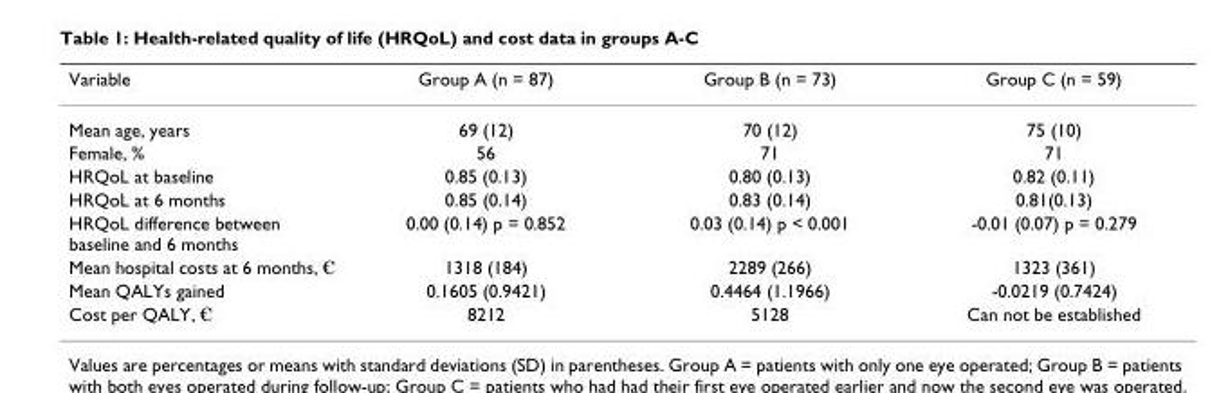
<table><thead><tr><td>Variable</td><td>Group A (n = 87)</td><td>Group B (n = 73)</td><td>Group C (n = 59)</td></tr></thead><tbody><tr><td>Mean age, years</td><td>69 (12)</td><td>70 (12)</td><td>75 (10)</td></tr><tr><td>Female, %</td><td>56</td><td>71</td><td>71</td></tr><tr><td>HRQoL at baseline</td><td>0.85 (0.13)</td><td>0.80 (0.13)</td><td>0.82 (0.11)</td></tr><tr><td>HRQoL at 6 months</td><td>0.85 (0.14)</td><td>0.83 (0.14)</td><td>0.81(0.13)</td></tr><tr><td>HRQoL difference between baseline and 6 months</td><td>0.00 (0.14) p = 0.852</td><td>0.03 (0.14) p &lt; 0.001</td><td>-0.01 (0.07) p = 0.279</td></tr><tr><td>Mean hospital costs at 6 months, €</td><td>1318 (184)</td><td>2289 (266)</td><td>1323 (361)</td></tr><tr><td>Mean QALYs gained</td><td>0.1605 (0.9421)</td><td>0.4464 (1.1966)</td><td>-0.0219 (0.7424)</td></tr><tr><td>Cost per QALY, €</td><td>8212</td><td>5128</td><td>Can not be established</td></tr></tbody></table>